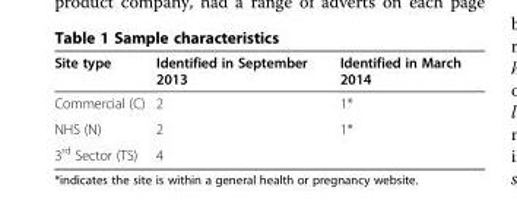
<table><thead><tr><td>Site type</td><td>Identified in September 2013</td><td>Identified in March 2014</td></tr></thead><tbody><tr><td>Commercial (C)</td><td>2</td><td>1*</td></tr><tr><td>NHS (N)</td><td>2</td><td>1*</td></tr><tr><td>3<sup>rd</sup> Sector (TS)</td><td>4</td><td></td></tr></tbody></table>